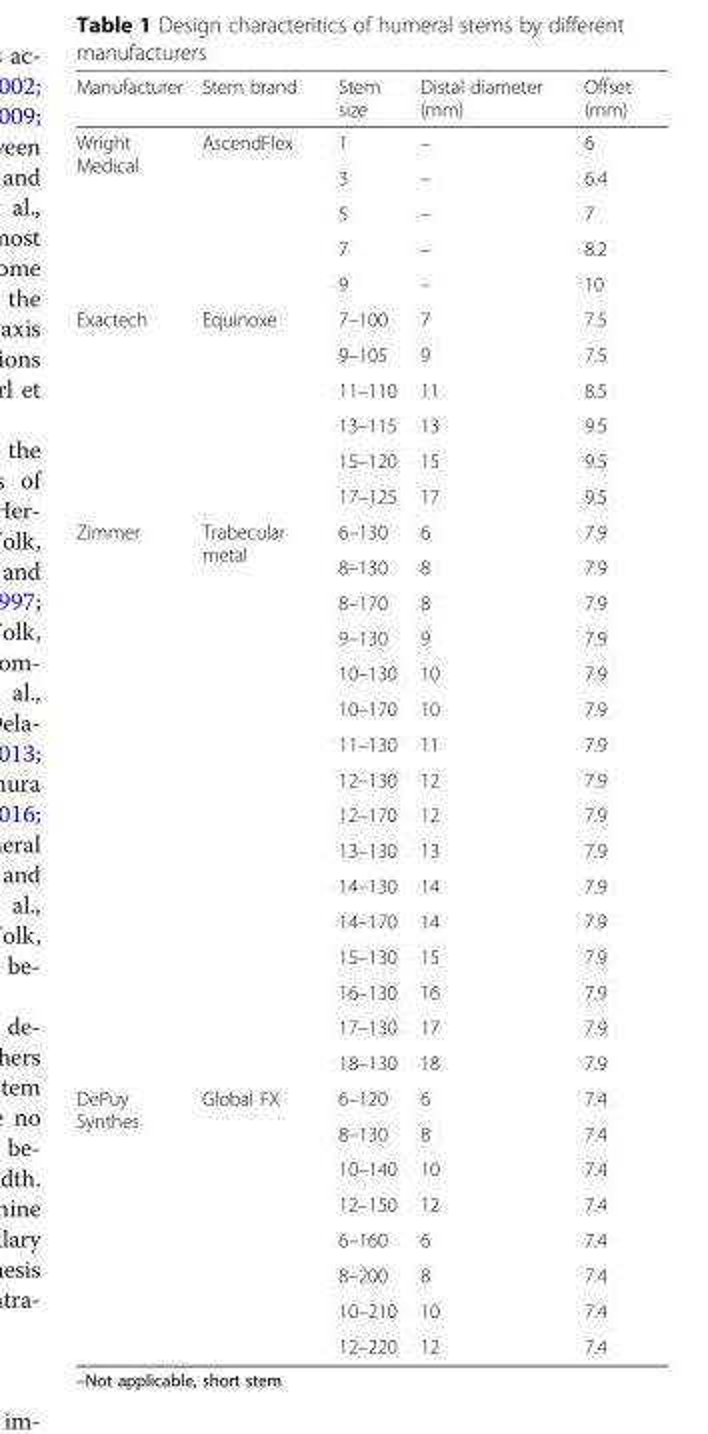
<table><thead><tr><td>Manufacturer</td><td>Stem brand</td><td>Stem size</td><td>Distal diameter (mm)</td><td>Offset (mm)</td></tr></thead><tbody><tr><td rowspan="5">Wright Medical</td><td rowspan="5">AscendFlex</td><td>1</td><td>–</td><td>6</td></tr><tr><td>3</td><td>–</td><td>6.4</td></tr><tr><td>5</td><td>–</td><td>7</td></tr><tr><td>7</td><td>–</td><td>8.2</td></tr><tr><td>9</td><td>–</td><td>10</td></tr><tr><td rowspan="6">Exactech</td><td rowspan="6">Equinoxe</td><td>7–100</td><td>7</td><td>7.5</td></tr><tr><td>9–105</td><td>9</td><td>7.5</td></tr><tr><td>11–110</td><td>11</td><td>8.5</td></tr><tr><td>13–115</td><td>13</td><td>9.5</td></tr><tr><td>15–120</td><td>15</td><td>9.5</td></tr><tr><td>17–125</td><td>17</td><td>9.5</td></tr><tr><td rowspan="16">Zimmer</td><td rowspan="16">Trabecular metal</td><td>6–130</td><td>6</td><td>7.9</td></tr><tr><td>8–130</td><td>8</td><td>7.9</td></tr><tr><td>8–170</td><td>8</td><td>7.9</td></tr><tr><td>9–130</td><td>9</td><td>7.9</td></tr><tr><td>10–130</td><td>10</td><td>7.9</td></tr><tr><td>10–170</td><td>10</td><td>7.9</td></tr><tr><td>11–130</td><td>11</td><td>7.9</td></tr><tr><td>12–130</td><td>12</td><td>7.9</td></tr><tr><td>12–170</td><td>12</td><td>7.9</td></tr><tr><td>13–130</td><td>13</td><td>7.9</td></tr><tr><td>14–130</td><td>14</td><td>7.9</td></tr><tr><td>14–170</td><td>14</td><td>7.9</td></tr><tr><td>15–130</td><td>15</td><td>7.9</td></tr><tr><td>16–130</td><td>16</td><td>7.9</td></tr><tr><td>17–130</td><td>17</td><td>7.9</td></tr><tr><td>18–130</td><td>18</td><td>7.9</td></tr><tr><td rowspan="8">DePuy Synthes</td><td rowspan="8">Global FX</td><td>6–120</td><td>6</td><td>7.4</td></tr><tr><td>8–130</td><td>8</td><td>7.4</td></tr><tr><td>10–140</td><td>10</td><td>7.4</td></tr><tr><td>12–150</td><td>12</td><td>7.4</td></tr><tr><td>6–160</td><td>6</td><td>7.4</td></tr><tr><td>8–200</td><td>8</td><td>7.4</td></tr><tr><td>10–210</td><td>10</td><td>7.4</td></tr><tr><td>12–220</td><td>12</td><td>7.4</td></tr></tbody></table>